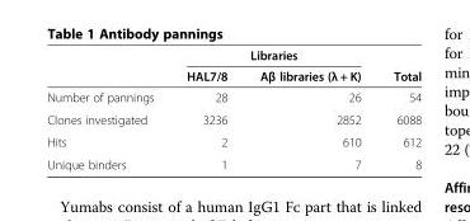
<table><thead><tr><td rowspan="2"></td><td colspan="2">Libraries</td><td rowspan="2">Total</td></tr><tr><td>HAL7/8</td><td>Aβ libraries (λ + K)</td></tr></thead><tbody><tr><td>Number of pannings</td><td>28</td><td>26</td><td>54</td></tr><tr><td>Clones investigated</td><td>3236</td><td>2852</td><td>6088</td></tr><tr><td>Hits</td><td>2</td><td>610</td><td>612</td></tr><tr><td>Unique binders</td><td>1</td><td>7</td><td>8</td></tr></tbody></table>